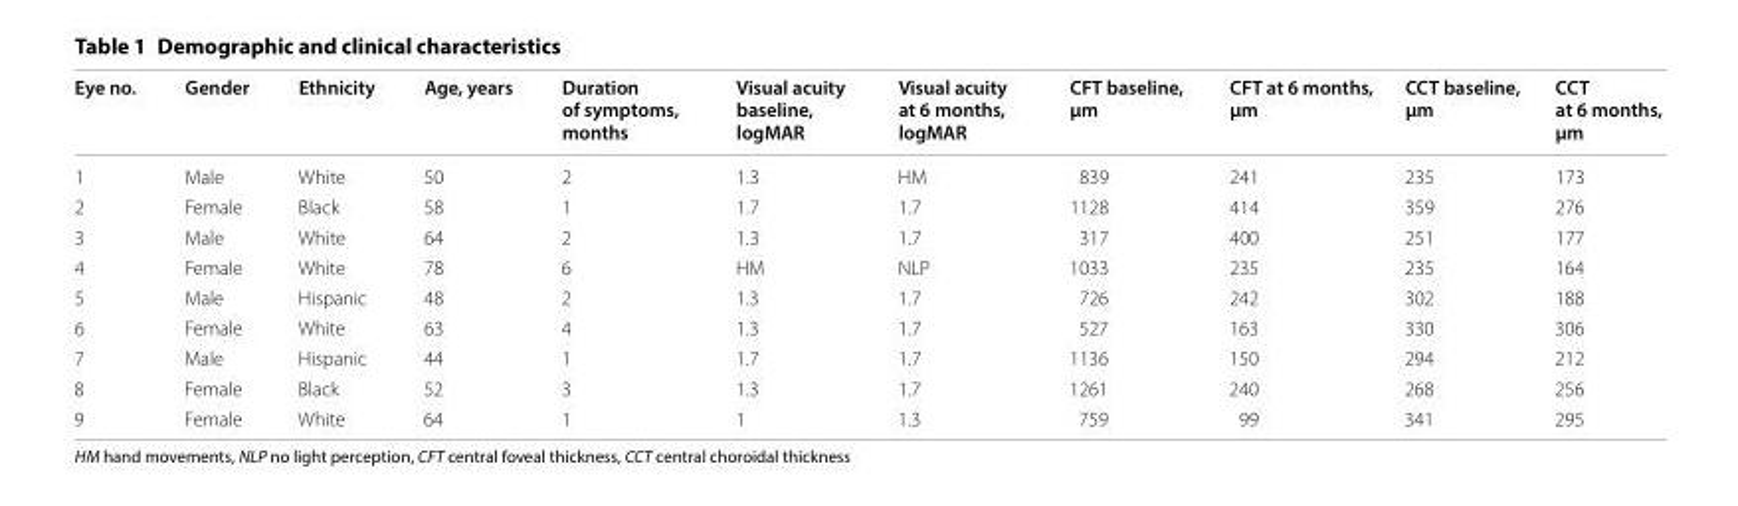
<table><thead><tr><td>Eye no.</td><td>Gender</td><td>Ethnicity</td><td>Age, years</td><td>Duration of symptoms, months</td><td>Visual acuity baseline, logMAR</td><td>Visual acuity at 6 months, logMAR</td><td>CFT baseline, μm</td><td>CFT at 6 months, μm</td><td>CCT baseline, μm</td><td>CCT at 6 months, μm</td></tr></thead><tbody><tr><td>1</td><td>Male</td><td>White</td><td>50</td><td>2</td><td>1.3</td><td>HM</td><td>839</td><td>241</td><td>235</td><td>173</td></tr><tr><td>2</td><td>Female</td><td>Black</td><td>58</td><td>1</td><td>1.7</td><td>1.7</td><td>1128</td><td>414</td><td>359</td><td>276</td></tr><tr><td>3</td><td>Male</td><td>White</td><td>64</td><td>2</td><td>1.3</td><td>1.7</td><td>317</td><td>400</td><td>251</td><td>177</td></tr><tr><td>4</td><td>Female</td><td>White</td><td>78</td><td>6</td><td>HM</td><td>NLP</td><td>1033</td><td>235</td><td>235</td><td>164</td></tr><tr><td>5</td><td>Male</td><td>Hispanic</td><td>48</td><td>2</td><td>1.3</td><td>1.7</td><td>726</td><td>242</td><td>302</td><td>188</td></tr><tr><td>6</td><td>Female</td><td>White</td><td>63</td><td>4</td><td>1.3</td><td>1.7</td><td>527</td><td>163</td><td>330</td><td>306</td></tr><tr><td>7</td><td>Male</td><td>Hispanic</td><td>44</td><td>1</td><td>1.7</td><td>1.7</td><td>1136</td><td>150</td><td>294</td><td>212</td></tr><tr><td>8</td><td>Female</td><td>Black</td><td>52</td><td>3</td><td>1.3</td><td>1.7</td><td>1261</td><td>240</td><td>268</td><td>256</td></tr><tr><td>9</td><td>Female</td><td>White</td><td>64</td><td>1</td><td>1</td><td>1.3</td><td>759</td><td>99</td><td>341</td><td>295</td></tr></tbody></table>